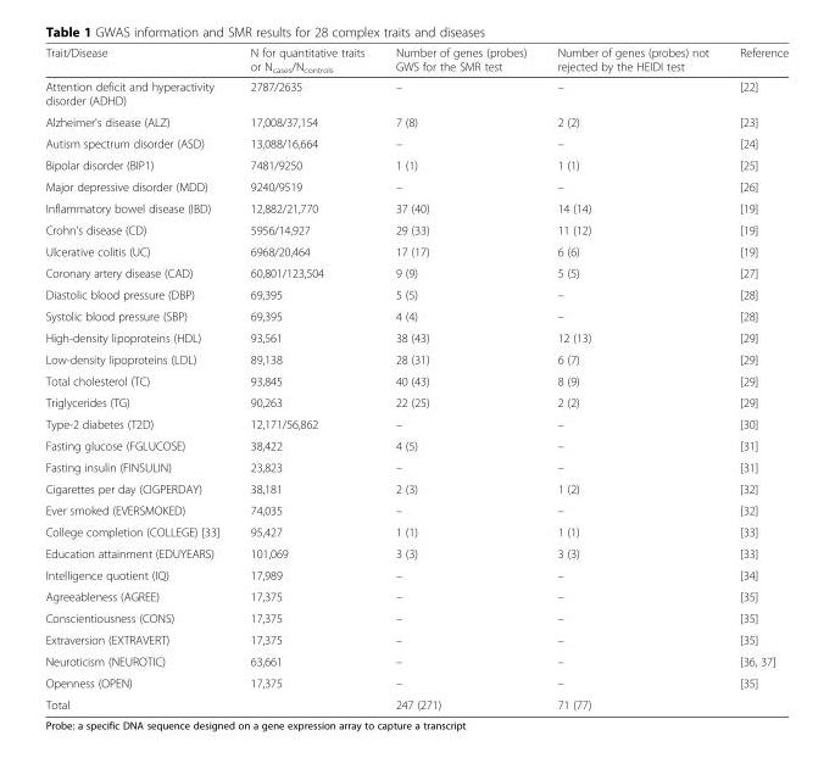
<table><thead><tr><td>Trait/Disease</td><td>N for quantitative traits or N<sub>cases</sub>/N<sub>controls</sub></td><td>Number of genes (probes) GWS for the SMR test</td><td>Number of genes (probes) not rejected by the HEIDI test</td><td>Reference</td></tr></thead><tbody><tr><td>Attention deficit and hyperactivity disorder (ADHD)</td><td>2787/2635</td><td>–</td><td>–</td><td>[22]</td></tr><tr><td>Alzheimer&#x27;s disease (ALZ)</td><td>17,008/37,154</td><td>7 (8)</td><td>2 (2)</td><td>[23]</td></tr><tr><td>Autism spectrum disorder (ASD)</td><td>13,088/16,664</td><td>–</td><td>–</td><td>[24]</td></tr><tr><td>Bipolar disorder (BIP1)</td><td>7481/9250</td><td>1 (1)</td><td>1 (1)</td><td>[25]</td></tr><tr><td>Major depressive disorder (MDD)</td><td>9240/9519</td><td>–</td><td>–</td><td>[26]</td></tr><tr><td>Inflammatory bowel disease (IBD)</td><td>12,882/21,770</td><td>37 (40)</td><td>14 (14)</td><td>[19]</td></tr><tr><td>Crohn&#x27;s disease (CD)</td><td>5956/14,927</td><td>29 (33)</td><td>11 (12)</td><td>[19]</td></tr><tr><td>Ulcerative colitis (UC)</td><td>6968/20,464</td><td>17 (17)</td><td>6 (6)</td><td>[19]</td></tr><tr><td>Coronary artery disease (CAD)</td><td>60,801/123,504</td><td>9 (9)</td><td>5 (5)</td><td>[27]</td></tr><tr><td>Diastolic blood pressure (DBP)</td><td>69,395</td><td>5 (5)</td><td>–</td><td>[28]</td></tr><tr><td>Systolic blood pressure (SBP)</td><td>69,395</td><td>4 (4)</td><td>–</td><td>[28]</td></tr><tr><td>High-density lipoproteins (HDL)</td><td>93,561</td><td>38 (43)</td><td>12 (13)</td><td>[29]</td></tr><tr><td>Low-density lipoproteins (LDL)</td><td>89,138</td><td>28 (31)</td><td>6 (7)</td><td>[29]</td></tr><tr><td>Total cholesterol (TC)</td><td>93,845</td><td>40 (43)</td><td>8 (9)</td><td>[29]</td></tr><tr><td>Triglycerides (TG)</td><td>90,263</td><td>22 (25)</td><td>2 (2)</td><td>[29]</td></tr><tr><td>Type-2 diabetes (T2D)</td><td>12,171/56,862</td><td>–</td><td>–</td><td>[30]</td></tr><tr><td>Fasting glucose (FGLUCOSE)</td><td>38,422</td><td>4 (5)</td><td>–</td><td>[31]</td></tr><tr><td>Fasting insulin (FINSULIN)</td><td>23,823</td><td>–</td><td>–</td><td>[31]</td></tr><tr><td>Cigarettes per day (CIGPERDAY)</td><td>38,181</td><td>2 (3)</td><td>1 (2)</td><td>[32]</td></tr><tr><td>Ever smoked (EVERSMOKED)</td><td>74,035</td><td>–</td><td>–</td><td>[32]</td></tr><tr><td>College completion (COLLEGE) [33]</td><td>95,427</td><td>1 (1)</td><td>1 (1)</td><td>[33]</td></tr><tr><td>Education attainment (EDUYEARS)</td><td>101,069</td><td>3 (3)</td><td>3 (3)</td><td>[33]</td></tr><tr><td>Intelligence quotient (IQ)</td><td>17,989</td><td>–</td><td>–</td><td>[34]</td></tr><tr><td>Agreeableness (AGREE)</td><td>17,375</td><td>–</td><td>–</td><td>[35]</td></tr><tr><td>Conscientiousness (CONS)</td><td>17,375</td><td>–</td><td>–</td><td>[35]</td></tr><tr><td>Extraversion (EXTRAVERT)</td><td>17,375</td><td>–</td><td>–</td><td>[35]</td></tr><tr><td>Neuroticism (NEUROTIC)</td><td>63,661</td><td>–</td><td>–</td><td>[36, 37]</td></tr><tr><td>Openness (OPEN)</td><td>17,375</td><td>–</td><td>–</td><td>[35]</td></tr><tr><td>Total</td><td></td><td>247 (271)</td><td>71 (77)</td><td></td></tr></tbody></table>